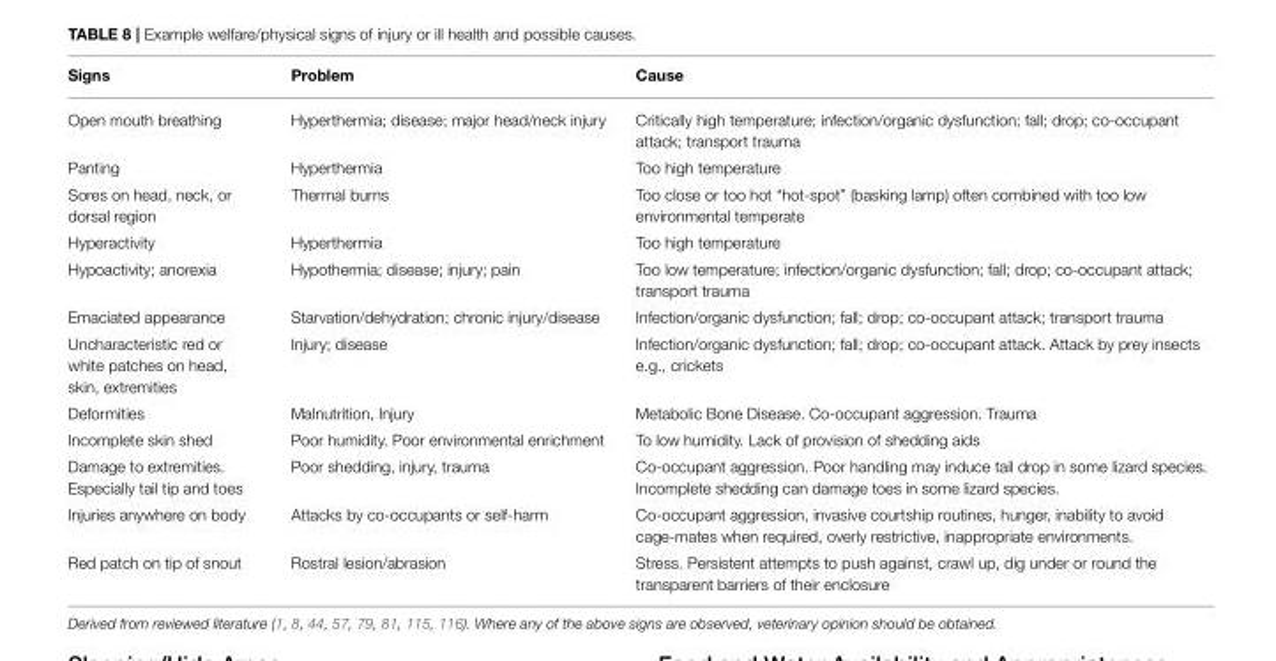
<table><thead><tr><td>Signs</td><td>Problem</td><td>Cause</td></tr></thead><tbody><tr><td>Open mouth breathing</td><td>Hyperthermia; disease; major head/neck injury</td><td>Critically high temperature; infection/organic dysfunction; fall; drop; co-occupant attack; transport trauma</td></tr><tr><td>Panting</td><td>Hyperthermia</td><td>Too high temperature</td></tr><tr><td>Sores on head, neck, or dorsal region</td><td>Thermal burns</td><td>Too close or too hot “hot-spot” (basking lamp) often combined with too low environmental temperate</td></tr><tr><td>Hyperactivity</td><td>Hyperthermia</td><td>Too high temperature</td></tr><tr><td>Hypoactivity; anorexia</td><td>Hypothermia; disease; injury; pain</td><td>Too low temperature; infection/organic dysfunction; fall; drop; co-occupant attack; transport trauma</td></tr><tr><td>Emaciated appearance</td><td>Starvation/dehydration; chronic injury/disease</td><td>Infection/organic dysfunction; fall; drop; co-occupant attack; transport trauma</td></tr><tr><td>Uncharacteristic red or white patches on head, skin, extremities</td><td>Injury; disease</td><td>Infection/organic dysfunction; fall; drop; co-occupant attack. Attack by prey insects e.g., crickets</td></tr><tr><td>Deformities</td><td>Malnutrition, Injury</td><td>Metabolic Bone Disease. Co-occupant aggression. Trauma</td></tr><tr><td>Incomplete skin shed</td><td>Poor humidity. Poor environmental enrichment</td><td>To low humidity. Lack of provision of shedding aids</td></tr><tr><td>Damage to extremities. Especially tail tip and toes</td><td>Poor shedding, injury, trauma</td><td>Co-occupant aggression. Poor handling may induce tail drop in some lizard species. Incomplete shedding can damage toes in some lizard species.</td></tr><tr><td>Injuries anywhere on body</td><td>Attacks by co-occupants or self-harm</td><td>Co-occupant aggression, invasive courtship routines, hunger, inability to avoid cage-mates when required, overly restrictive, inappropriate environments.</td></tr><tr><td>Red patch on tip of snout</td><td>Rostral lesion/abrasion</td><td>Stress. Persistent attempts to push against, crawl up, dig under or round the transparent barriers of their enclosure</td></tr></tbody></table>